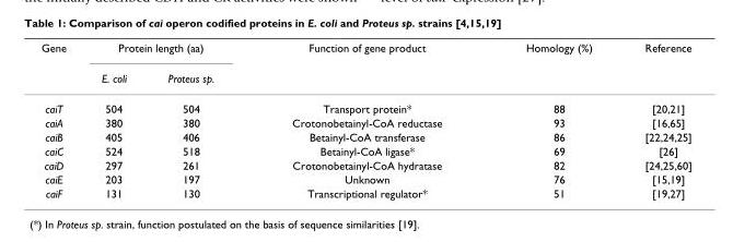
<table><thead><tr><td rowspan="2">Gene</td><td colspan="2">Protein length (aa)</td><td rowspan="2">Function of gene product</td><td rowspan="2">Homology (%)</td><td rowspan="2">Reference</td></tr><tr><td>E. coli</td><td>Proteus sp.</td></tr></thead><tbody><tr><td>caiT</td><td>504</td><td>504</td><td>Transport protein*</td><td>88</td><td>[20,21]</td></tr><tr><td>caiA</td><td>380</td><td>380</td><td>Crotonobetainyl-CoA reductase</td><td>93</td><td>[16,65]</td></tr><tr><td>caiB</td><td>405</td><td>406</td><td>Betainyl-CoA transferase</td><td>86</td><td>[22,24,25]</td></tr><tr><td>caiC</td><td>524</td><td>518</td><td>Betainyl-CoA ligase*</td><td>69</td><td>[26]</td></tr><tr><td>caiD</td><td>297</td><td>261</td><td>Crotonobetainyl-CoA hydratase</td><td>82</td><td>[24,25,60]</td></tr><tr><td>caiE</td><td>203</td><td>197</td><td>Unknown</td><td>76</td><td>[15,19]</td></tr><tr><td>caiF</td><td>131</td><td>130</td><td>Transcriptional regulator*</td><td>51</td><td>[19,27]</td></tr></tbody></table>